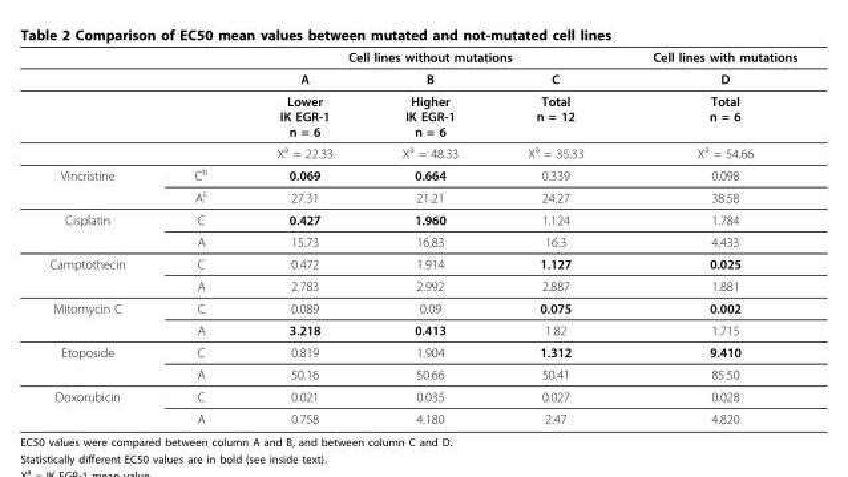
<table><thead><tr><td rowspan="2"></td><td rowspan="2"></td><td colspan="3">Cell lines without mutations</td><td rowspan="2">Cell lines with mutations D</td></tr><tr><td>A</td><td>B</td><td>C</td></tr></thead><tbody><tr><td></td><td></td><td>Lower IK EGR-1 n = 6</td><td>Higher IK EGR-1 n = 6</td><td>Total n = 12</td><td>Total n = 6</td></tr><tr><td></td><td></td><td>X<sup>a</sup> = 22.33</td><td>X<sup>a</sup> = 48.33</td><td>X<sup>a</sup> = 35.33</td><td>X<sup>a</sup> = 54.66</td></tr><tr><td rowspan="2">Vincristine</td><td>C<sup>b</sup></td><td>0.069</td><td>0.664</td><td>0.339</td><td>0.098</td></tr><tr><td>A<sup>c</sup></td><td>27.31</td><td>21.21</td><td>24.27</td><td>38.58</td></tr><tr><td rowspan="2">Cisplatin</td><td>C</td><td>0.427</td><td>1.960</td><td>1.124</td><td>1.784</td></tr><tr><td>A</td><td>15.73</td><td>16.83</td><td>16.3</td><td>4.433</td></tr><tr><td rowspan="2">Camptothecin</td><td>C</td><td>0.472</td><td>1.914</td><td>1.127</td><td>0.025</td></tr><tr><td>A</td><td>2.783</td><td>2.992</td><td>2.887</td><td>1.881</td></tr><tr><td rowspan="2">Mitomycin C</td><td>C</td><td>0.089</td><td>0.09</td><td>0.075</td><td>0.002</td></tr><tr><td>A</td><td>3.218</td><td>0.413</td><td>1.82</td><td>1.715</td></tr><tr><td rowspan="2">Etoposide</td><td>C</td><td>0.819</td><td>1.904</td><td>1.312</td><td>9.410</td></tr><tr><td>A</td><td>50.16</td><td>50.66</td><td>50.41</td><td>85.50</td></tr><tr><td rowspan="2">Doxorubicin</td><td>C</td><td>0.021</td><td>0.035</td><td>0.027</td><td>0.028</td></tr><tr><td>A</td><td>0.758</td><td>4.180</td><td>2.47</td><td>4.820</td></tr></tbody></table>